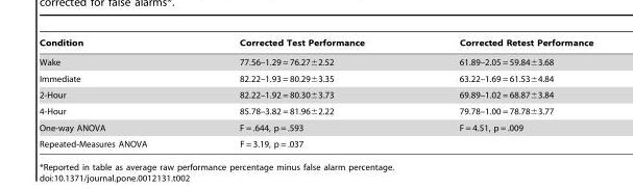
<table><thead><tr><td>Condition</td><td>Corrected Test Performance</td><td>Corrected Retest Performance</td></tr></thead><tbody><tr><td>Wake</td><td>77.56–1.29 = 76.27±2.52</td><td>61.89–2.05 = 59.84±3.68</td></tr><tr><td>Immediate</td><td>82.22–1.93 = 80.29±3.35</td><td>63.22–1.69 = 61.53±4.84</td></tr><tr><td>2-Hour</td><td>82.22–1.92 = 80.30±3.73</td><td>69.89–1.02 = 68.87±3.84</td></tr><tr><td>4-Hour</td><td>85.78–3.82 = 81.96±2.22</td><td>79.78–1.00 = 78.78±3.77</td></tr><tr><td>One-way ANOVA</td><td>F = .644, p = .593</td><td>F = 4.51, p = .009</td></tr><tr><td>Repeated-Measures ANOVA</td><td>F = 3.19, p = .037</td><td></td></tr></tbody></table>